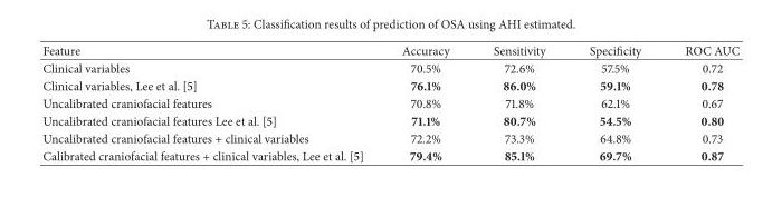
<table><thead><tr><td>Feature</td><td>Accuracy</td><td>Sensitivity</td><td>Specificity</td><td>ROC AUC</td></tr></thead><tbody><tr><td>Clinical variables</td><td>70.5%</td><td>72.6%</td><td>57.5%</td><td>0.72</td></tr><tr><td>Clinical variables, Lee et al. [5]</td><td>76.1%</td><td>86.0%</td><td>59.1%</td><td>0.78</td></tr><tr><td>Uncalibrated craniofacial features</td><td>70.8%</td><td>71.8%</td><td>62.1%</td><td>0.67</td></tr><tr><td>Uncalibrated craniofacial features Lee et al. [5]</td><td>71.1%</td><td>80.7%</td><td>54.5%</td><td>0.80</td></tr><tr><td>Uncalibrated craniofacial features + clinical variables</td><td>72.2%</td><td>73.3%</td><td>64.8%</td><td>0.73</td></tr><tr><td>Calibrated craniofacial features + clinical variables, Lee et al. [5]</td><td>79.4%</td><td>85.1%</td><td>69.7%</td><td>0.87</td></tr></tbody></table>